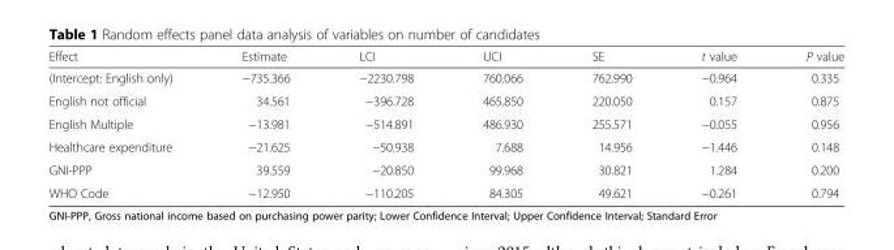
<table><thead><tr><td>Effect</td><td>Estimate</td><td>LCI</td><td>UCI</td><td>SE</td><td>t value</td><td>P value</td></tr></thead><tbody><tr><td>(Intercept: English only)</td><td>−735.366</td><td>−2230.798</td><td>760.066</td><td>762.990</td><td>−0.964</td><td>0.335</td></tr><tr><td>English not official</td><td>34.561</td><td>−396.728</td><td>465.850</td><td>220.050</td><td>0.157</td><td>0.875</td></tr><tr><td>English Multiple</td><td>−13.981</td><td>−514.891</td><td>486.930</td><td>255.571</td><td>−0.055</td><td>0.956</td></tr><tr><td>Healthcare expenditure</td><td>−21.625</td><td>−50.938</td><td>7.688</td><td>14.956</td><td>−1.446</td><td>0.148</td></tr><tr><td>GNI-PPP</td><td>39.559</td><td>−20.850</td><td>99.968</td><td>30.821</td><td>1.284</td><td>0.200</td></tr><tr><td>WHO Code</td><td>−12.950</td><td>−110.205</td><td>84.305</td><td>49.621</td><td>−0.261</td><td>0.794</td></tr></tbody></table>